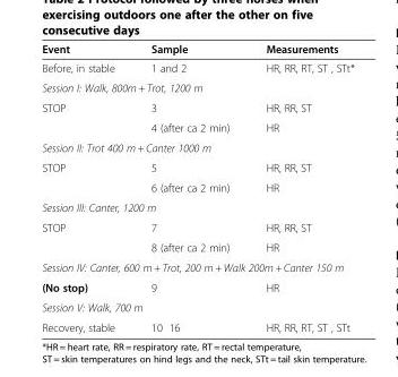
<table><thead><tr><td>Event</td><td>Sample</td><td>Measurements</td></tr></thead><tbody><tr><td>Before, in stable</td><td>1 and 2</td><td>HR, RR, RT, ST , STt*</td></tr><tr><td colspan="3">Session I: Walk, 800m + Trot, 1200 m</td></tr><tr><td rowspan="2">STOP</td><td>3</td><td>HR, RR, ST</td></tr><tr><td>4 (after ca 2 min)</td><td>HR</td></tr><tr><td colspan="3">Session II: Trot 400 m + Canter 1000 m</td></tr><tr><td rowspan="2">STOP</td><td>5</td><td>HR, RR, ST</td></tr><tr><td>6 (after ca 2 min)</td><td>HR</td></tr><tr><td colspan="3">Session III: Canter, 1200 m</td></tr><tr><td rowspan="2">STOP</td><td>7</td><td>HR, RR, ST</td></tr><tr><td>8 (after ca 2 min)</td><td>HR</td></tr><tr><td colspan="3">Session IV: Canter, 600 m + Trot, 200 m + Walk 200m + Canter 150 m</td></tr><tr><td>(No stop)</td><td>9</td><td>HR</td></tr><tr><td colspan="3">Session V: Walk, 700 m</td></tr><tr><td>Recovery, stable</td><td>10 16</td><td>HR, RR, RT, ST , STt</td></tr></tbody></table>